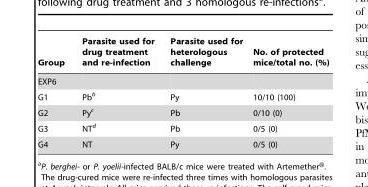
<table><thead><tr><td>Group</td><td>Parasite used for drug treatment and re-infection</td><td>Parasite used for heterologous challenge</td><td>No. of protected mice/total no. (%)</td></tr></thead><tbody><tr><td colspan="4">EXP6</td></tr><tr><td>G1</td><td>Pb<sup>b</sup></td><td>Py</td><td>10/10 (100)</td></tr><tr><td>G2</td><td>Py<sup>c</sup></td><td>Pb</td><td>0/10 (0)</td></tr><tr><td>G3</td><td>NT<sup>d</sup></td><td>Pb</td><td>0/5 (0)</td></tr><tr><td>G4</td><td>NT</td><td>Py</td><td>0/5 (0)</td></tr></tbody></table>